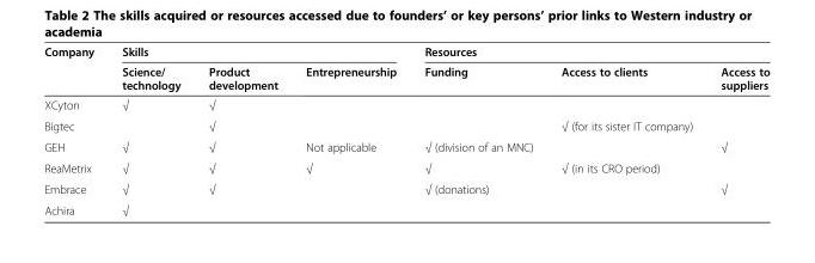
<table><thead><tr><td rowspan="2">Company</td><td colspan="3">Skills</td><td colspan="3">Resources</td></tr><tr><td>Science/ technology</td><td>Product development</td><td>Entrepreneurship</td><td>Funding</td><td>Access to clients</td><td>Access to suppliers</td></tr></thead><tbody><tr><td>XCyton</td><td>√</td><td>√</td><td></td><td></td><td></td><td></td></tr><tr><td>Bigtec</td><td></td><td>√</td><td></td><td></td><td>√ (for its sister IT company)</td><td></td></tr><tr><td>GEH</td><td>√</td><td>√</td><td>Not applicable</td><td>√ (division of an MNC)</td><td></td><td>√</td></tr><tr><td>ReaMetrix</td><td>√</td><td>√</td><td>√</td><td>√</td><td>√ (in its CRO period)</td><td></td></tr><tr><td>Embrace</td><td>√</td><td>√</td><td></td><td>√ (donations)</td><td></td><td>√</td></tr><tr><td>Achira</td><td>√</td><td></td><td></td><td></td><td></td><td></td></tr></tbody></table>